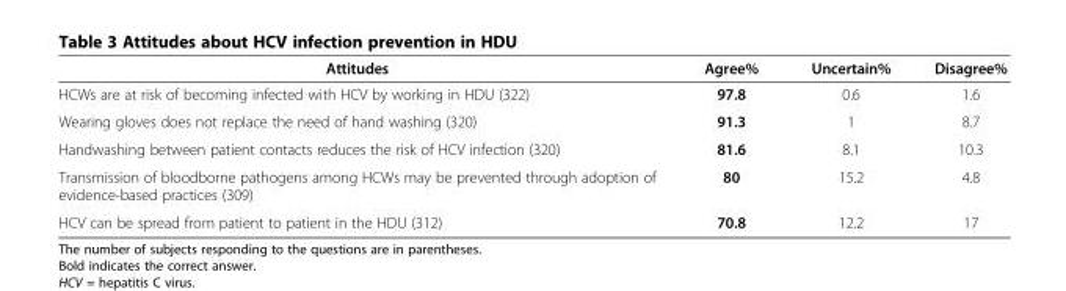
<table><thead><tr><td>Attitudes</td><td>Agree%</td><td>Uncertain%</td><td>Disagree%</td></tr></thead><tbody><tr><td>HCWs are at risk of becoming infected with HCV by working in HDU (322)</td><td>97.8</td><td>0.6</td><td>1.6</td></tr><tr><td>Wearing gloves does not replace the need of hand washing (320)</td><td>91.3</td><td>1</td><td>8.7</td></tr><tr><td>Handwashing between patient contacts reduces the risk of HCV infection (320)</td><td>81.6</td><td>8.1</td><td>10.3</td></tr><tr><td>Transmission of bloodborne pathogens among HCWs may be prevented through adoption of evidence-based practices (309)</td><td>80</td><td>15.2</td><td>4.8</td></tr><tr><td>HCV can be spread from patient to patient in the HDU (312)</td><td>70.8</td><td>12.2</td><td>17</td></tr></tbody></table>